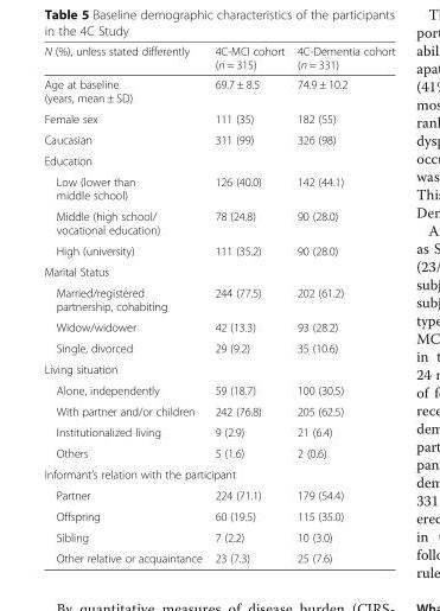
<table><thead><tr><td>N (%), unless stated differently</td><td>4C-MCI cohort (n = 315)</td><td>4C-Dementia cohort (n = 331)</td></tr></thead><tbody><tr><td>Age at baseline (years, mean ± SD)</td><td>69.7 ± 8.5</td><td>74.9 ± 10.2</td></tr><tr><td>Female sex</td><td>111 (35)</td><td>182 (55)</td></tr><tr><td>Caucasian</td><td>311 (99)</td><td>326 (98)</td></tr><tr><td colspan="3">Education</td></tr><tr><td>Low (lower than middle school)</td><td>126 (40.0)</td><td>142 (44.1)</td></tr><tr><td>Middle (high school/ vocational education)</td><td>78 (24.8)</td><td>90 (28.0)</td></tr><tr><td>High (university)</td><td>111 (35.2)</td><td>90 (28.0)</td></tr><tr><td colspan="3">Marital Status</td></tr><tr><td>Married/registered partnership, cohabiting</td><td>244 (77.5)</td><td>202 (61.2)</td></tr><tr><td>Widow/widower</td><td>42 (13.3)</td><td>93 (28.2)</td></tr><tr><td>Single, divorced</td><td>29 (9.2)</td><td>35 (10.6)</td></tr><tr><td colspan="3">Living situation</td></tr><tr><td>Alone, independently</td><td>59 (18.7)</td><td>100 (30.5)</td></tr><tr><td>With partner and/or children</td><td>242 (76.8)</td><td>205 (62.5)</td></tr><tr><td>Institutionalized living</td><td>9 (2.9)</td><td>21 (6.4)</td></tr><tr><td>Others</td><td>5 (1.6)</td><td>2 (0.6)</td></tr><tr><td colspan="3">Informant’s relation with the participant</td></tr><tr><td>Partner</td><td>224 (71.1)</td><td>179 (54.4)</td></tr><tr><td>Offspring</td><td>60 (19.5)</td><td>115 (35.0)</td></tr><tr><td>Sibling</td><td>7 (2.2)</td><td>10 (3.0)</td></tr><tr><td>Other relative or acquaintance</td><td>23 (7.3)</td><td>25 (7.6)</td></tr></tbody></table>